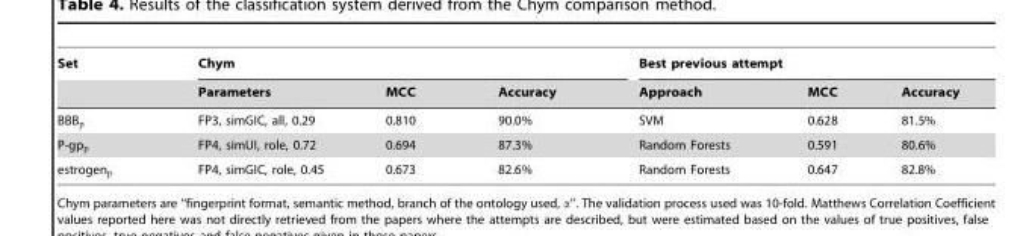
<table><thead><tr><td rowspan="2">Set</td><td colspan="3">Chym</td><td colspan="3">Best previous attempt</td></tr><tr><td>Parameters</td><td>MCC</td><td>Accuracy</td><td>Approach</td><td>MCC</td><td>Accuracy</td></tr></thead><tbody><tr><td>BBBp</td><td>FP3, simGIC, all, 0.29</td><td>0.810</td><td>90.0%</td><td>SVM</td><td>0.628</td><td>81.5%</td></tr><tr><td>P-gpp</td><td>FP4, simUI, role, 0.72</td><td>0.694</td><td>87.3%</td><td>Random Forests</td><td>0.591</td><td>80.6%</td></tr><tr><td>estrogenp</td><td>FP4, simGIC, role, 0.45</td><td>0.673</td><td>82.6%</td><td>Random Forests</td><td>0.647</td><td>82.8%</td></tr></tbody></table>